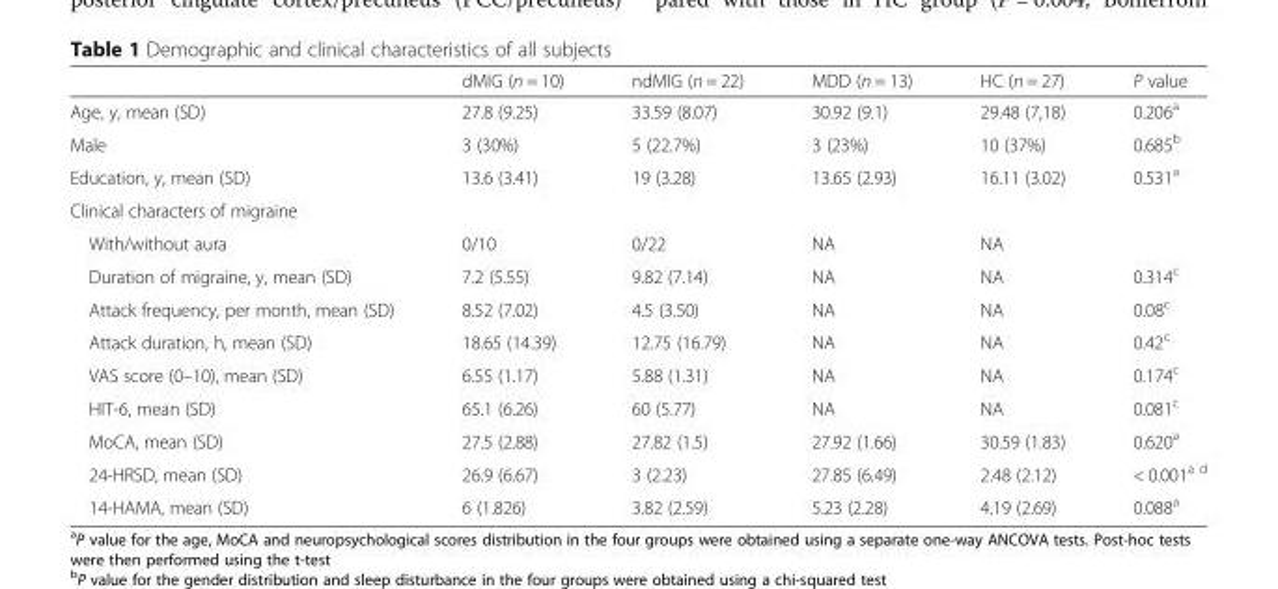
<table><thead><tr><td></td><td>dMIG (n = 10)</td><td>ndMIG (n = 22)</td><td>MDD (n = 13)</td><td>HC (n = 27)</td><td>P value</td></tr></thead><tbody><tr><td>Age, y, mean (SD)</td><td>27.8 (9.25)</td><td>33.59 (8.07)</td><td>30.92 (9.1)</td><td>29.48 (7,18)</td><td>0.206<sup>a</sup></td></tr><tr><td>Male</td><td>3 (30%)</td><td>5 (22.7%)</td><td>3 (23%)</td><td>10 (37%)</td><td>0.685<sup>b</sup></td></tr><tr><td>Education, y, mean (SD)</td><td>13.6 (3.41)</td><td>19 (3.28)</td><td>13.65 (2.93)</td><td>16.11 (3.02)</td><td>0.531<sup>a</sup></td></tr><tr><td colspan="6">Clinical characters of migraine</td></tr><tr><td>With/without aura</td><td>0/10</td><td>0/22</td><td>NA</td><td>NA</td><td></td></tr><tr><td>Duration of migraine, y, mean (SD)</td><td>7.2 (5.55)</td><td>9.82 (7.14)</td><td>NA</td><td>NA</td><td>0.314<sup>c</sup></td></tr><tr><td>Attack frequency, per month, mean (SD)</td><td>8.52 (7.02)</td><td>4.5 (3.50)</td><td>NA</td><td>NA</td><td>0.08<sup>c</sup></td></tr><tr><td>Attack duration, h, mean (SD)</td><td>18.65 (14.39)</td><td>12.75 (16.79)</td><td>NA</td><td>NA</td><td>0.42<sup>c</sup></td></tr><tr><td>VAS score (0–10), mean (SD)</td><td>6.55 (1.17)</td><td>5.88 (1.31)</td><td>NA</td><td>NA</td><td>0.174<sup>c</sup></td></tr><tr><td>HIT-6, mean (SD)</td><td>65.1 (6.26)</td><td>60 (5.77)</td><td>NA</td><td>NA</td><td>0.081<sup>c</sup></td></tr><tr><td>MoCA, mean (SD)</td><td>27.5 (2.88)</td><td>27.82 (1.5)</td><td>27.92 (1.66)</td><td>30.59 (1.83)</td><td>0.620<sup>a</sup></td></tr><tr><td>24-HRSD, mean (SD)</td><td>26.9 (6.67)</td><td>3 (2.23)</td><td>27.85 (6.49)</td><td>2.48 (2.12)</td><td>&lt; 0.001<sup>a d</sup></td></tr><tr><td>14-HAMA, mean (SD)</td><td>6 (1.826)</td><td>3.82 (2.59)</td><td>5.23 (2.28)</td><td>4.19 (2.69)</td><td>0.088<sup>a</sup></td></tr></tbody></table>